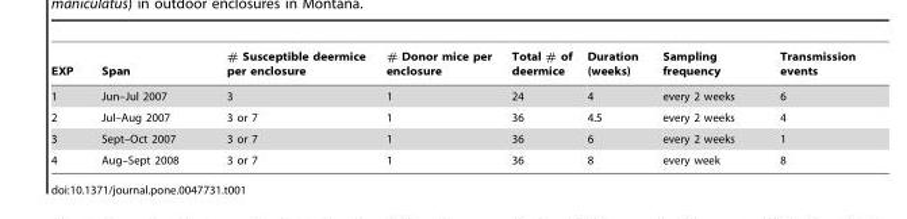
<table><thead><tr><td>EXP</td><td>Span</td><td># Susceptible deermice per enclosure</td><td># Donor mice per enclosure</td><td>Total # of deermice</td><td>Duration (weeks)</td><td>Sampling frequency</td><td>Transmission events</td></tr></thead><tbody><tr><td>1</td><td>Jun–Jul 2007</td><td>3</td><td>1</td><td>24</td><td>4</td><td>every 2 weeks</td><td>6</td></tr><tr><td>2</td><td>Jul–Aug 2007</td><td>3 or 7</td><td>1</td><td>36</td><td>4.5</td><td>every 2 weeks</td><td>4</td></tr><tr><td>3</td><td>Sept–Oct 2007</td><td>3 or 7</td><td>1</td><td>36</td><td>6</td><td>every 2 weeks</td><td>1</td></tr><tr><td>4</td><td>Aug–Sept 2008</td><td>3 or 7</td><td>1</td><td>36</td><td>8</td><td>every week</td><td>8</td></tr></tbody></table>